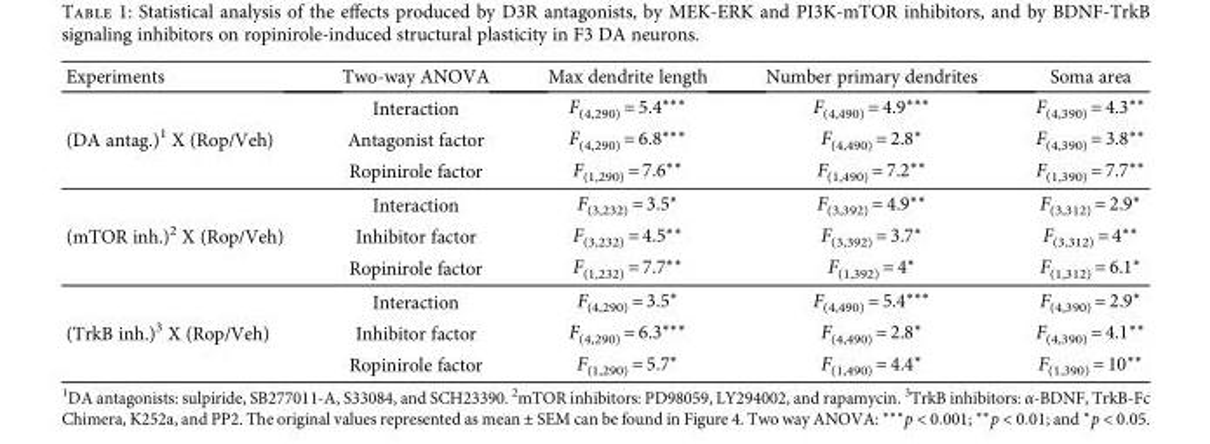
<table><thead><tr><td>Experiments</td><td>Two-way ANOVA</td><td>Max dendrite length</td><td>Number primary dendrites</td><td>Soma area</td></tr></thead><tbody><tr><td rowspan="3">(DA antag.)<sup>1</sup> X (Rop/Veh)</td><td>Interaction</td><td>F<sub>(4,290)</sub> = 5.4∗∗∗</td><td>F<sub>(4,490)</sub> = 4.9∗∗∗</td><td>F<sub>(4,390)</sub> = 4.3∗∗</td></tr><tr><td>Antagonist factor</td><td>F<sub>(4,290)</sub> = 6.8∗∗∗</td><td>F<sub>(4,490)</sub> = 2.8∗</td><td>F<sub>(4,390)</sub> = 3.8∗∗</td></tr><tr><td>Ropinirole factor</td><td>F<sub>(1,290)</sub> = 7.6∗∗</td><td>F<sub>(1,490)</sub> = 7.2∗∗</td><td>F<sub>(1,390)</sub> = 7.7∗∗</td></tr><tr><td rowspan="3">(mTOR inh.)<sup>2</sup> X (Rop/Veh)</td><td>Interaction</td><td>F<sub>(3,232)</sub> = 3.5∗</td><td>F<sub>(3,392)</sub> = 4.9∗∗</td><td>F<sub>(3,312)</sub> = 2.9∗</td></tr><tr><td>Inhibitor factor</td><td>F<sub>(3,232)</sub> = 4.5∗∗</td><td>F<sub>(3,392)</sub> = 3.7∗</td><td>F<sub>(3,312)</sub> = 4∗∗</td></tr><tr><td>Ropinirole factor</td><td>F<sub>(1,232)</sub> = 7.7∗∗</td><td>F<sub>(1,392)</sub> = 4∗</td><td>F<sub>(1,312)</sub> = 6.1∗</td></tr><tr><td rowspan="3">(TrkB inh.)<sup>3</sup> X (Rop/Veh)</td><td>Interaction</td><td>F<sub>(4,290)</sub> = 3.5∗</td><td>F<sub>(4,490)</sub> = 5.4∗∗∗</td><td>F<sub>(4,390)</sub> = 2.9∗</td></tr><tr><td>Inhibitor factor</td><td>F<sub>(4,290)</sub> = 6.3∗∗∗</td><td>F<sub>(4,490)</sub> = 2.8∗</td><td>F<sub>(4,390)</sub> = 4.1∗∗</td></tr><tr><td>Ropinirole factor</td><td>F<sub>(1,290)</sub> = 5.7∗</td><td>F<sub>(1,490)</sub> = 4.4∗</td><td>F<sub>(1,390)</sub> = 10∗∗</td></tr></tbody></table>